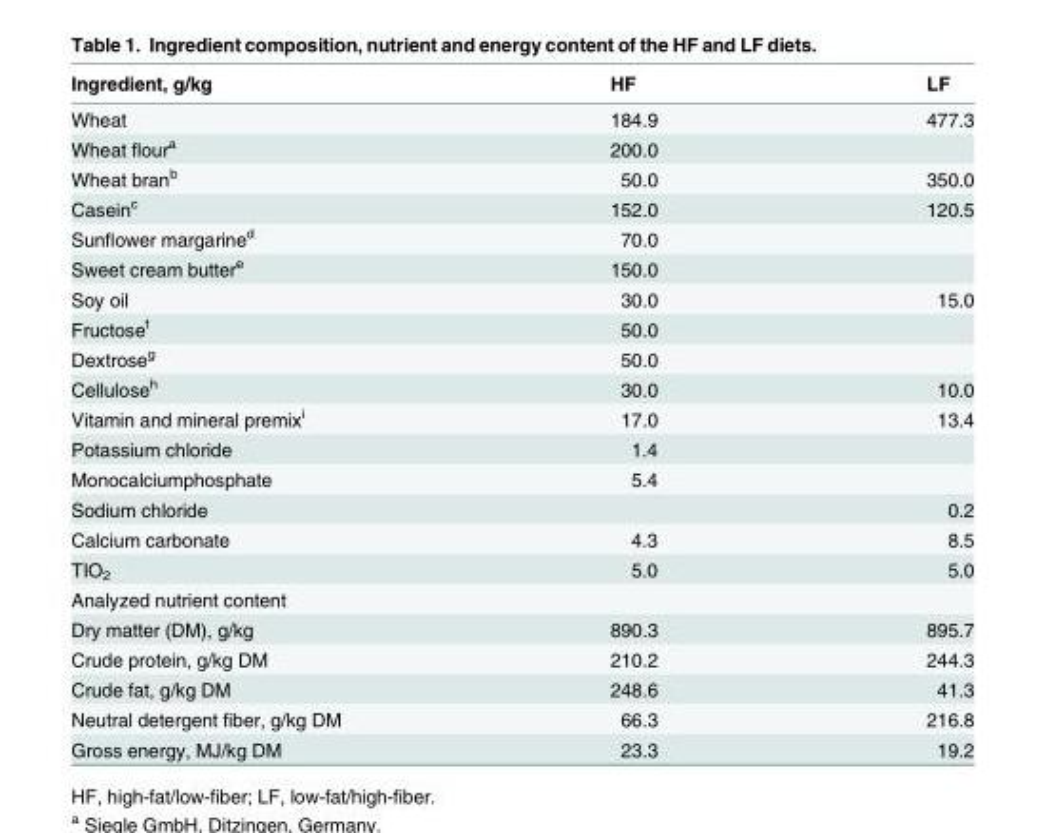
<table><thead><tr><td>Ingredient, g/kg</td><td>HF</td><td>LF</td></tr></thead><tbody><tr><td>Wheat</td><td>184.9</td><td>477.3</td></tr><tr><td>Wheat flour<sup>a</sup></td><td>200.0</td><td></td></tr><tr><td>Wheat bran<sup>b</sup></td><td>50.0</td><td>350.0</td></tr><tr><td>Casein<sup>c</sup></td><td>152.0</td><td>120.5</td></tr><tr><td>Sunflower margarine<sup>d</sup></td><td>70.0</td><td></td></tr><tr><td>Sweet cream butter<sup>e</sup></td><td>150.0</td><td></td></tr><tr><td>Soy oil</td><td>30.0</td><td>15.0</td></tr><tr><td>Fructose<sup>f</sup></td><td>50.0</td><td></td></tr><tr><td>Dextrose<sup>g</sup></td><td>50.0</td><td></td></tr><tr><td>Cellulose<sup>h</sup></td><td>30.0</td><td>10.0</td></tr><tr><td>Vitamin and mineral premix<sup>i</sup></td><td>17.0</td><td>13.4</td></tr><tr><td>Potassium chloride</td><td>1.4</td><td></td></tr><tr><td>Monocalciumphosphate</td><td>5.4</td><td></td></tr><tr><td>Sodium chloride</td><td></td><td>0.2</td></tr><tr><td>Calcium carbonate</td><td>4.3</td><td>8.5</td></tr><tr><td>TIO<sub>2</sub></td><td>5.0</td><td>5.0</td></tr><tr><td colspan="3">Analyzed nutrient content</td></tr><tr><td>Dry matter (DM), g/kg</td><td>890.3</td><td>895.7</td></tr><tr><td>Crude protein, g/kg DM</td><td>210.2</td><td>244.3</td></tr><tr><td>Crude fat, g/kg DM</td><td>248.6</td><td>41.3</td></tr><tr><td>Neutral detergent fiber, g/kg DM</td><td>66.3</td><td>216.8</td></tr><tr><td>Gross energy, MJ/kg DM</td><td>23.3</td><td>19.2</td></tr></tbody></table>